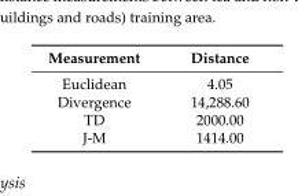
<table><thead><tr><td>Measurement</td><td>Distance</td></tr></thead><tbody><tr><td>Euclidean</td><td>4.05</td></tr><tr><td>Divergence</td><td>14,288.60</td></tr><tr><td>TD</td><td>2000.00</td></tr><tr><td>J-M</td><td>1414.00</td></tr></tbody></table>